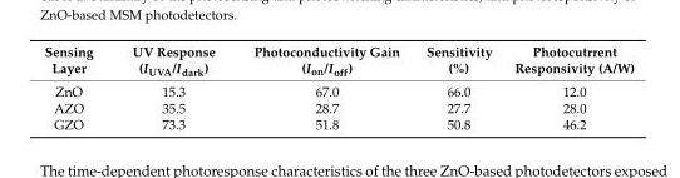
<table><thead><tr><td>Sensing Layer</td><td>UV Response (I<sub>UVA</sub>/I<sub>dark</sub>)</td><td>Photoconductivity Gain (I<sub>on</sub>/I<sub>off</sub>)</td><td>Sensitivity (%)</td><td>Photocutrrent Responsivity (A/W)</td></tr></thead><tbody><tr><td>ZnO</td><td>15.3</td><td>67.0</td><td>66.0</td><td>12.0</td></tr><tr><td>AZO</td><td>35.5</td><td>28.7</td><td>27.7</td><td>28.0</td></tr><tr><td>GZO</td><td>73.3</td><td>51.8</td><td>50.8</td><td>46.2</td></tr></tbody></table>